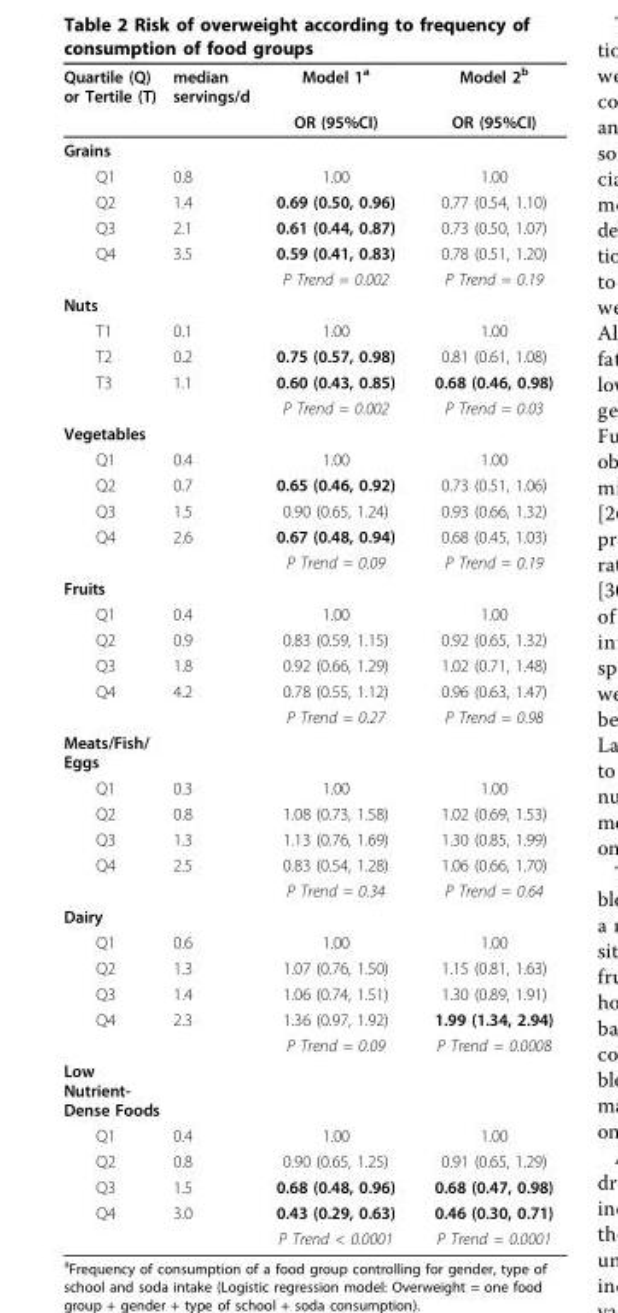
<table><thead><tr><td rowspan="2">Quartile (Q) or Tertile (T)</td><td rowspan="2">median servings/d</td><td rowspan="2">Model 1<sup>a</sup> OR (95%CI)</td><td rowspan="2">Model 2<sup>b</sup> OR (95%CI)</td></tr><tr></tr></thead><tbody><tr><td colspan="4">Grains</td></tr><tr><td>Q1</td><td>0.8</td><td>1.00</td><td>1.00</td></tr><tr><td>Q2</td><td>1.4</td><td>0.69 (0.50, 0.96)</td><td>0.77 (0.54, 1.10)</td></tr><tr><td>Q3</td><td>2.1</td><td>0.61 (0.44, 0.87)</td><td>0.73 (0.50, 1.07)</td></tr><tr><td rowspan="2">Q4</td><td>3.5</td><td>0.59 (0.41, 0.83)</td><td>0.78 (0.51, 1.20)</td></tr><tr><td></td><td>P Trend = 0.002</td><td>P Trend = 0.19</td></tr><tr><td colspan="4">Nuts</td></tr><tr><td>T1</td><td>0.1</td><td>1.00</td><td>1.00</td></tr><tr><td>T2</td><td>0.2</td><td>0.75 (0.57, 0.98)</td><td>0.81 (0.61, 1.08)</td></tr><tr><td rowspan="2">T3</td><td>1.1</td><td>0.60 (0.43, 0.85)</td><td>0.68 (0.46, 0.98)</td></tr><tr><td></td><td>P Trend = 0.002</td><td>P Trend = 0.03</td></tr><tr><td colspan="4">Vegetables</td></tr><tr><td>Q1</td><td>0.4</td><td>1.00</td><td>1.00</td></tr><tr><td>Q2</td><td>0.7</td><td>0.65 (0.46, 0.92)</td><td>0.73 (0.51, 1.06)</td></tr><tr><td>Q3</td><td>1.5</td><td>0.90 (0.65, 1.24)</td><td>0.93 (0.66, 1.32)</td></tr><tr><td rowspan="2">Q4</td><td>2.6</td><td>0.67 (0.48, 0.94)</td><td>0.68 (0.45, 1.03)</td></tr><tr><td></td><td>P Trend = 0.09</td><td>P Trend = 0.19</td></tr><tr><td colspan="4">Fruits</td></tr><tr><td>Q1</td><td>0.4</td><td>1.00</td><td>1.00</td></tr><tr><td>Q2</td><td>0.9</td><td>0.83 (0.59, 1.15)</td><td>0.92 (0.65, 1.32)</td></tr><tr><td>Q3</td><td>1.8</td><td>0.92 (0.66, 1.29)</td><td>1.02 (0.71, 1.48)</td></tr><tr><td rowspan="2">Q4</td><td>4.2</td><td>0.78 (0.55, 1.12)</td><td>0.96 (0.63, 1.47)</td></tr><tr><td></td><td>P Trend = 0.27</td><td>P Trend = 0.98</td></tr><tr><td colspan="4">Meats/Fish/ Eggs</td></tr><tr><td>Q1</td><td>0.3</td><td>1.00</td><td>1.00</td></tr><tr><td>Q2</td><td>0.8</td><td>1.08 (0.73, 1.58)</td><td>1.02 (0.69, 1.53)</td></tr><tr><td>Q3</td><td>1.3</td><td>1.13 (0.76, 1.69)</td><td>1.30 (0.85, 1.99)</td></tr><tr><td rowspan="2">Q4</td><td>2.5</td><td>0.83 (0.54, 1.28)</td><td>1.06 (0.66, 1.70)</td></tr><tr><td></td><td>P Trend = 0.34</td><td>P Trend = 0.64</td></tr><tr><td colspan="4">Dairy</td></tr><tr><td>Q1</td><td>0.6</td><td>1.00</td><td>1.00</td></tr><tr><td>Q2</td><td>1.3</td><td>1.07 (0.76, 1.50)</td><td>1.15 (0.81, 1.63)</td></tr><tr><td>Q3</td><td>1.4</td><td>1.06 (0.74, 1.51)</td><td>1.30 (0.89, 1.91)</td></tr><tr><td rowspan="2">Q4</td><td>2.3</td><td>1.36 (0.97, 1.92)</td><td>1.99 (1.34, 2.94)</td></tr><tr><td></td><td>P Trend = 0.09</td><td>P Trend = 0.0008</td></tr><tr><td colspan="4">Low Nutrient- Dense Foods</td></tr><tr><td>Q1</td><td>0.4</td><td>1.00</td><td>1.00</td></tr><tr><td>Q2</td><td>0.8</td><td>0.90 (0.65, 1.25)</td><td>0.91 (0.65, 1.29)</td></tr><tr><td>Q3</td><td>1.5</td><td>0.68 (0.48, 0.96)</td><td>0.68 (0.47, 0.98)</td></tr><tr><td rowspan="2">Q4</td><td>3.0</td><td>0.43 (0.29, 0.63)</td><td>0.46 (0.30, 0.71)</td></tr><tr><td></td><td>P Trend &lt; 0.0001</td><td>P Trend = 0.0001</td></tr></tbody></table>